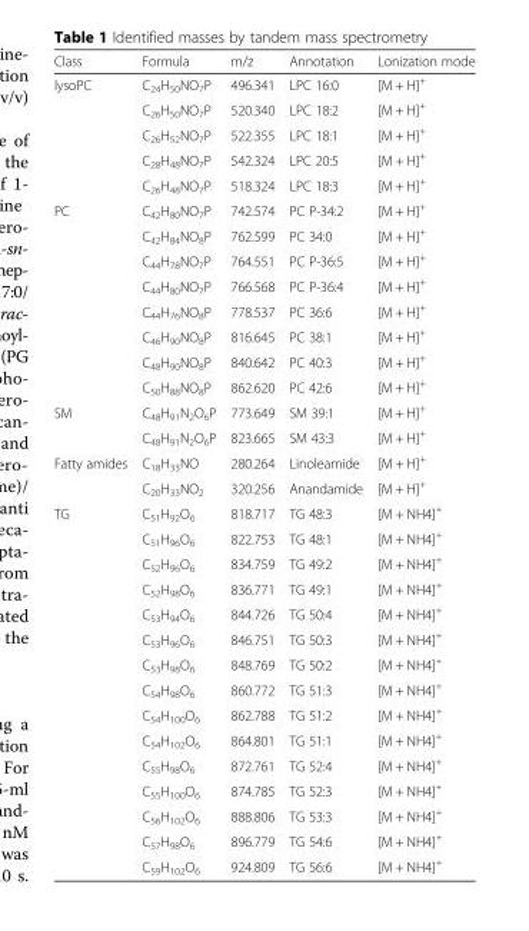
<table><thead><tr><td>Class</td><td>Formula</td><td>m/z</td><td>Annotation</td><td>Lonization mode</td></tr></thead><tbody><tr><td rowspan="5">lysoPC</td><td>C<sub>24</sub>H<sub>50</sub>NO<sub>7</sub>P</td><td>496.341</td><td>LPC 16:0</td><td>[M + H]<sup>+</sup></td></tr><tr><td>C<sub>26</sub>H<sub>50</sub>NO<sub>7</sub>P</td><td>520.340</td><td>LPC 18:2</td><td>[M + H]<sup>+</sup></td></tr><tr><td>C<sub>26</sub>H<sub>52</sub>NO<sub>7</sub>P</td><td>522.355</td><td>LPC 18:1</td><td>[M + H]<sup>+</sup></td></tr><tr><td>C<sub>28</sub>H<sub>48</sub>NO<sub>7</sub>P</td><td>542.324</td><td>LPC 20:5</td><td>[M + H]<sup>+</sup></td></tr><tr><td>C<sub>26</sub>H<sub>48</sub>NO<sub>7</sub>P</td><td>518.324</td><td>LPC 18:3</td><td>[M + H]<sup>+</sup></td></tr><tr><td rowspan="8">PC</td><td>C<sub>42</sub>H<sub>80</sub>NO<sub>7</sub>P</td><td>742.574</td><td>PC P-34:2</td><td>[M + H]<sup>+</sup></td></tr><tr><td>C<sub>42</sub>H<sub>84</sub>NO<sub>8</sub>P</td><td>762.599</td><td>PC 34:0</td><td>[M + H]<sup>+</sup></td></tr><tr><td>C<sub>44</sub>H<sub>78</sub>NO<sub>7</sub>P</td><td>764.551</td><td>PC P-36:5</td><td>[M + H]<sup>+</sup></td></tr><tr><td>C<sub>44</sub>H<sub>80</sub>NO<sub>7</sub>P</td><td>766.568</td><td>PC P-36:4</td><td>[M + H]<sup>+</sup></td></tr><tr><td>C<sub>44</sub>H<sub>76</sub>NO<sub>8</sub>P</td><td>778.537</td><td>PC 36:6</td><td>[M + H]<sup>+</sup></td></tr><tr><td>C<sub>46</sub>H<sub>90</sub>NO<sub>8</sub>P</td><td>816.645</td><td>PC 38:1</td><td>[M + H]<sup>+</sup></td></tr><tr><td>C<sub>48</sub>H<sub>90</sub>NO<sub>8</sub>P</td><td>840.642</td><td>PC 40:3</td><td>[M + H]<sup>+</sup></td></tr><tr><td>C<sub>50</sub>H<sub>88</sub>NO<sub>8</sub>P</td><td>862.620</td><td>PC 42:6</td><td>[M + H]<sup>+</sup></td></tr><tr><td rowspan="2">SM</td><td>C<sub>48</sub>H<sub>91</sub>N<sub>2</sub>O<sub>6</sub>P</td><td>773.649</td><td>SM 39:1</td><td>[M + H]<sup>+</sup></td></tr><tr><td>C<sub>48</sub>H<sub>91</sub>N<sub>2</sub>O<sub>6</sub>P</td><td>823.665</td><td>SM 43:3</td><td>[M + H]<sup>+</sup></td></tr><tr><td rowspan="2">Fatty amides</td><td>C<sub>18</sub>H<sub>33</sub>NO</td><td>280.264</td><td>Linoleamide</td><td>[M + H]<sup>+</sup></td></tr><tr><td>C<sub>20</sub>H<sub>33</sub>NO<sub>2</sub></td><td>320.256</td><td>Anandamide</td><td>[M + H]<sup>+</sup></td></tr><tr><td rowspan="15">TG</td><td>C<sub>51</sub>H<sub>92</sub>O<sub>6</sub></td><td>818.717</td><td>TG 48:3</td><td>[M + NH4]<sup>+</sup></td></tr><tr><td>C<sub>51</sub>H<sub>96</sub>O<sub>6</sub></td><td>822.753</td><td>TG 48:1</td><td>[M + NH4]<sup>+</sup></td></tr><tr><td>C<sub>52</sub>H<sub>96</sub>O<sub>6</sub></td><td>834.759</td><td>TG 49:2</td><td>[M + NH4]<sup>+</sup></td></tr><tr><td>C<sub>52</sub>H<sub>98</sub>O<sub>6</sub></td><td>836.771</td><td>TG 49:1</td><td>[M + NH4]<sup>+</sup></td></tr><tr><td>C<sub>53</sub>H<sub>94</sub>O<sub>6</sub></td><td>844.726</td><td>TG 50:4</td><td>[M + NH4]<sup>+</sup></td></tr><tr><td>C<sub>53</sub>H<sub>96</sub>O<sub>6</sub></td><td>846.751</td><td>TG 50:3</td><td>[M + NH4]<sup>+</sup></td></tr><tr><td>C<sub>53</sub>H<sub>98</sub>O<sub>6</sub></td><td>848.769</td><td>TG 50:2</td><td>[M + NH4]<sup>+</sup></td></tr><tr><td>C<sub>54</sub>H<sub>98</sub>O<sub>6</sub></td><td>860.772</td><td>TG 51:3</td><td>[M + NH4]<sup>+</sup></td></tr><tr><td>C<sub>54</sub>H<sub>100</sub>O<sub>6</sub></td><td>862.788</td><td>TG 51:2</td><td>[M + NH4]<sup>+</sup></td></tr><tr><td>C<sub>54</sub>H<sub>102</sub>O<sub>6</sub></td><td>864.801</td><td>TG 51:1</td><td>[M + NH4]<sup>+</sup></td></tr><tr><td>C<sub>55</sub>H<sub>98</sub>O<sub>6</sub></td><td>872.761</td><td>TG 52:4</td><td>[M + NH4]<sup>+</sup></td></tr><tr><td>C<sub>55</sub>H<sub>100</sub>O<sub>6</sub></td><td>874.785</td><td>TG 52:3</td><td>[M + NH4]<sup>+</sup></td></tr><tr><td>C<sub>56</sub>H<sub>102</sub>O<sub>6</sub></td><td>888.806</td><td>TG 53:3</td><td>[M + NH4]<sup>+</sup></td></tr><tr><td>C<sub>57</sub>H<sub>98</sub>O<sub>6</sub></td><td>896.779</td><td>TG 54:6</td><td>[M + NH4]<sup>+</sup></td></tr><tr><td>C<sub>59</sub>H<sub>102</sub>O<sub>6</sub></td><td>924.809</td><td>TG 56:6</td><td>[M + NH4]<sup>+</sup></td></tr></tbody></table>